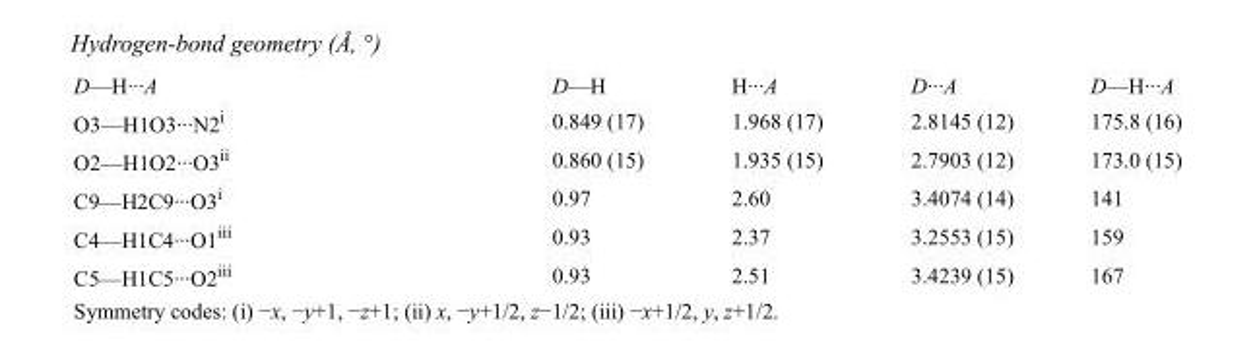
<table><tbody><tr><td>D—H···A</td><td>D—H</td><td>H···A</td><td>D···A</td><td>D—H···A</td></tr><tr><td>O3—H1O3···N2<sup>i</sup></td><td>0.849 (17)</td><td>1.968 (17)</td><td>2.8145 (12)</td><td>175.8 (16)</td></tr><tr><td>O2—H1O2···O3<sup>ii</sup></td><td>0.860 (15)</td><td>1.935 (15)</td><td>2.7903 (12)</td><td>173.0 (15)</td></tr><tr><td>C9—H2C9···O3<sup>i</sup></td><td>0.97</td><td>2.60</td><td>3.4074 (14)</td><td>141</td></tr><tr><td>C4—H1C4···O1<sup>iii</sup></td><td>0.93</td><td>2.37</td><td>3.2553 (15)</td><td>159</td></tr><tr><td>C5—H1C5···O2<sup>iii</sup></td><td>0.93</td><td>2.51</td><td>3.4239 (15)</td><td>167</td></tr></tbody></table>